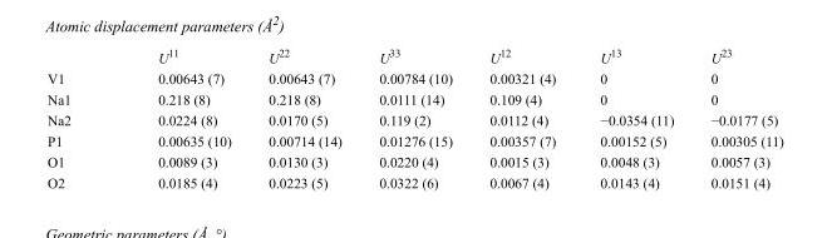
<table><thead><tr><td></td><td>U<sup>11</sup></td><td>U<sup>22</sup></td><td>U<sup>33</sup></td><td>U<sup>12</sup></td><td>U<sup>13</sup></td><td>U<sup>23</sup></td></tr></thead><tbody><tr><td>V1</td><td>0.00643 (7)</td><td>0.00643 (7)</td><td>0.00784 (10)</td><td>0.00321 (4)</td><td>0</td><td>0</td></tr><tr><td>Na1</td><td>0.218 (8)</td><td>0.218 (8)</td><td>0.0111 (14)</td><td>0.109 (4)</td><td>0</td><td>0</td></tr><tr><td>Na2</td><td>0.0224 (8)</td><td>0.0170 (5)</td><td>0.119 (2)</td><td>0.0112 (4)</td><td>−0.0354 (11)</td><td>−0.0177 (5)</td></tr><tr><td>P1</td><td>0.00635 (10)</td><td>0.00714 (14)</td><td>0.01276 (15)</td><td>0.00357 (7)</td><td>0.00152 (5)</td><td>0.00305 (11)</td></tr><tr><td>O1</td><td>0.0089 (3)</td><td>0.0130 (3)</td><td>0.0220 (4)</td><td>0.0015 (3)</td><td>0.0048 (3)</td><td>0.0057 (3)</td></tr><tr><td>O2</td><td>0.0185 (4)</td><td>0.0223 (5)</td><td>0.0322 (6)</td><td>0.0067 (4)</td><td>0.0143 (4)</td><td>0.0151 (4)</td></tr></tbody></table>